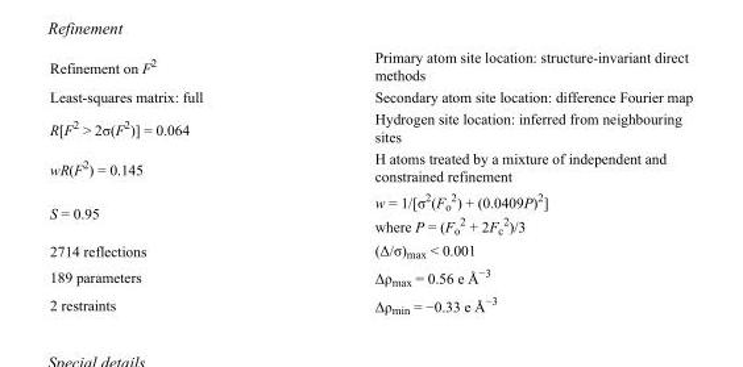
<table><tbody><tr><td>Refinement on F<sup>2</sup></td><td>Primary atom site location: structure-invariant direct methods</td></tr><tr><td>Least-squares matrix: full</td><td>Secondary atom site location: difference Fourier map</td></tr><tr><td>R[F<sup>2</sup> &gt; 2σ(F<sup>2</sup>)] = 0.064</td><td>Hydrogen site location: inferred from neighbouring sites</td></tr><tr><td>wR(F<sup>2</sup>) = 0.145</td><td>H atoms treated by a mixture of independent and constrained refinement</td></tr><tr><td>S = 0.95</td><td>w = 1/[σ<sup>2</sup>(F<sub>o</sub> <sup>2</sup>) + (0.0409P)<sup>2</sup>] where P = (F<sub>o</sub> <sup>2</sup> + 2F<sub>c</sub> <sup>2</sup>)/3</td></tr><tr><td>2714 reflections</td><td>(Δ/σ)<sub>max</sub> &lt; 0.001</td></tr><tr><td>189 parameters</td><td>Δρ<sub>max</sub> = 0.56 e Å<sup>−3</sup></td></tr><tr><td>2 restraints</td><td>Δρ<sub>min</sub> = −0.33 e Å<sup>−3</sup></td></tr></tbody></table>